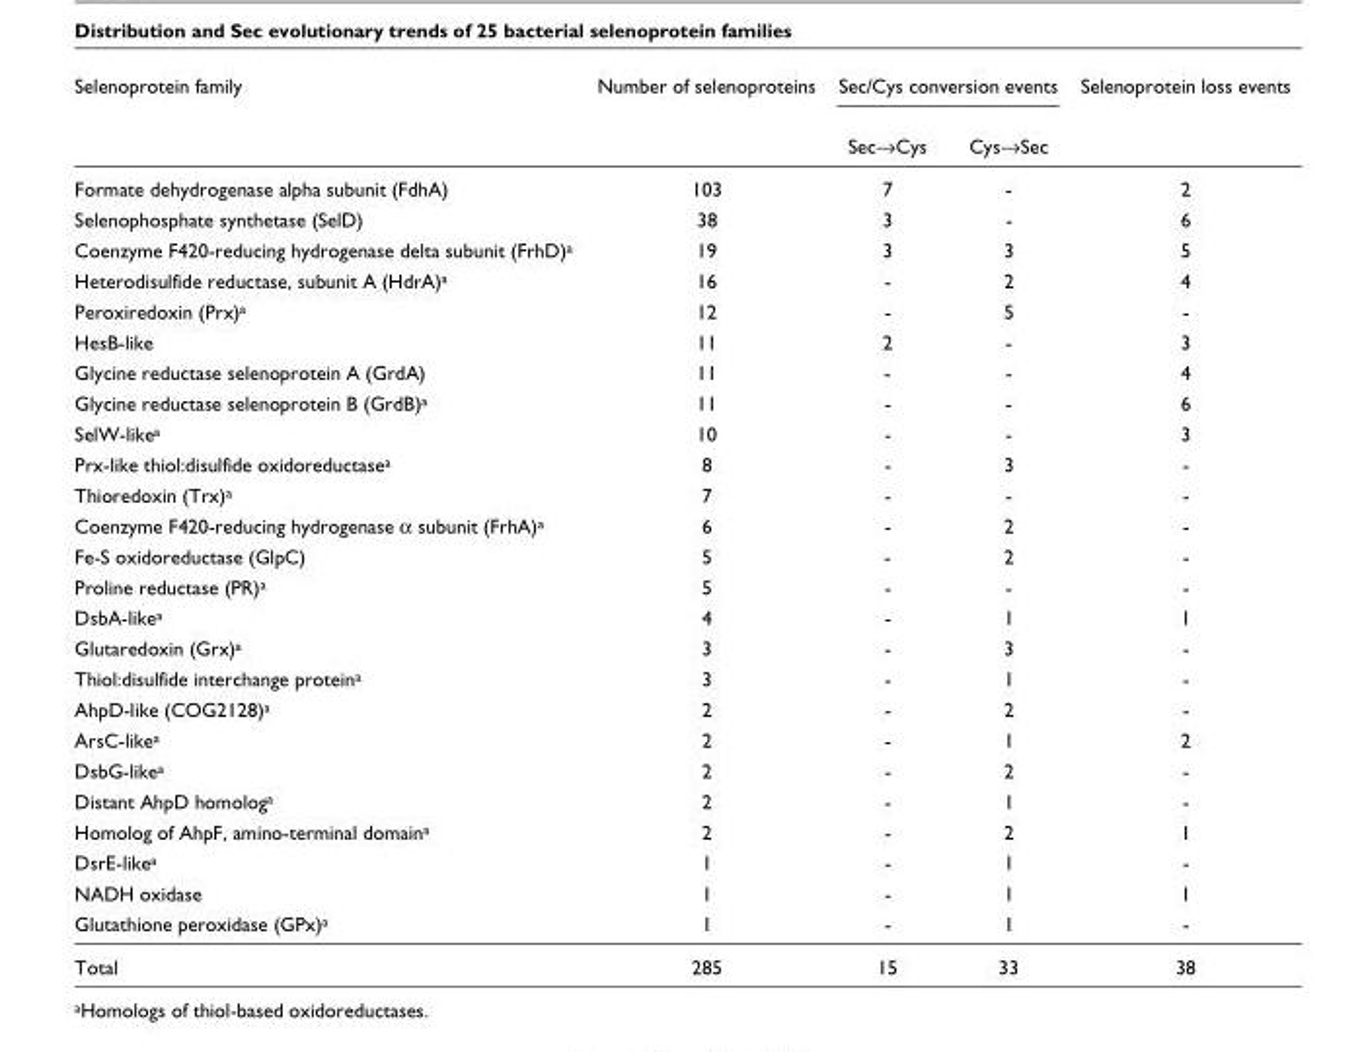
<table><thead><tr><td rowspan="2">Selenoprotein family</td><td rowspan="2">Number of selenoproteins</td><td colspan="2">Sec/Cys conversion events</td><td rowspan="2">Selenoprotein loss events</td></tr><tr><td>Sec→Cys</td><td>Cys→Sec</td></tr></thead><tbody><tr><td>Formate dehydrogenase alpha subunit (FdhA)</td><td>103</td><td>7</td><td>-</td><td>2</td></tr><tr><td>Selenophosphate synthetase (SelD)</td><td>38</td><td>3</td><td>-</td><td>6</td></tr><tr><td>Coenzyme F420-reducing hydrogenase delta subunit (FrhD)a</td><td>19</td><td>3</td><td>3</td><td>5</td></tr><tr><td>Heterodisulfide reductase, subunit A (HdrA)a</td><td>16</td><td>-</td><td>2</td><td>4</td></tr><tr><td>Peroxiredoxin (Prx)a</td><td>12</td><td>-</td><td>5</td><td>-</td></tr><tr><td>HesB-like</td><td>11</td><td>2</td><td>-</td><td>3</td></tr><tr><td>Glycine reductase selenoprotein A (GrdA)</td><td>11</td><td>-</td><td>-</td><td>4</td></tr><tr><td>Glycine reductase selenoprotein B (GrdB)a</td><td>11</td><td>-</td><td>-</td><td>6</td></tr><tr><td>SelW-likea</td><td>10</td><td>-</td><td>-</td><td>3</td></tr><tr><td>Prx-like thiol:disulfide oxidoreductasea</td><td>8</td><td>-</td><td>3</td><td>-</td></tr><tr><td>Thioredoxin (Trx)a</td><td>7</td><td>-</td><td>-</td><td>-</td></tr><tr><td>Coenzyme F420-reducing hydrogenase α subunit (FrhA)a</td><td>6</td><td>-</td><td>2</td><td>-</td></tr><tr><td>Fe-S oxidoreductase (GlpC)</td><td>5</td><td>-</td><td>2</td><td>-</td></tr><tr><td>Proline reductase (PR)a</td><td>5</td><td>-</td><td>-</td><td>-</td></tr><tr><td>DsbA-likea</td><td>4</td><td>-</td><td>1</td><td>1</td></tr><tr><td>Glutaredoxin (Grx)a</td><td>3</td><td>-</td><td>3</td><td>-</td></tr><tr><td>Thiol:disulfide interchange proteina</td><td>3</td><td>-</td><td>1</td><td>-</td></tr><tr><td>AhpD-like (COG2128)a</td><td>2</td><td>-</td><td>2</td><td>-</td></tr><tr><td>ArsC-likea</td><td>2</td><td>-</td><td>1</td><td>2</td></tr><tr><td>DsbG-likea</td><td>2</td><td>-</td><td>2</td><td>-</td></tr><tr><td>Distant AhpD homologa</td><td>2</td><td>-</td><td>1</td><td>-</td></tr><tr><td>Homolog of AhpF, amino-terminal domaina</td><td>2</td><td>-</td><td>2</td><td>1</td></tr><tr><td>DsrE-likea</td><td>1</td><td>-</td><td>1</td><td>-</td></tr><tr><td>NADH oxidase</td><td>1</td><td>-</td><td>1</td><td>1</td></tr><tr><td>Glutathione peroxidase (GPx)a</td><td>1</td><td>-</td><td>1</td><td>-</td></tr><tr><td>Total</td><td>285</td><td>15</td><td>33</td><td>38</td></tr></tbody></table>